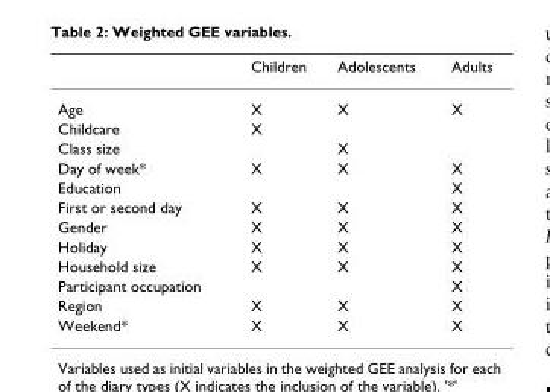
<table><thead><tr><td></td><td>Children</td><td>Adolescents</td><td>Adults</td></tr></thead><tbody><tr><td>Age</td><td>X</td><td>X</td><td>X</td></tr><tr><td>Childcare</td><td>X</td><td></td><td></td></tr><tr><td>Class size</td><td></td><td>X</td><td></td></tr><tr><td>Day of week*</td><td>X</td><td>X</td><td>X</td></tr><tr><td>Education</td><td></td><td></td><td>X</td></tr><tr><td>First or second day</td><td>X</td><td>X</td><td>X</td></tr><tr><td>Gender</td><td>X</td><td>X</td><td>X</td></tr><tr><td>Holiday</td><td>X</td><td>X</td><td>X</td></tr><tr><td>Household size</td><td>X</td><td>X</td><td>X</td></tr><tr><td>Participant occupation</td><td></td><td></td><td>X</td></tr><tr><td>Region</td><td>X</td><td>X</td><td>X</td></tr><tr><td>Weekend*</td><td>X</td><td>X</td><td>X</td></tr></tbody></table>